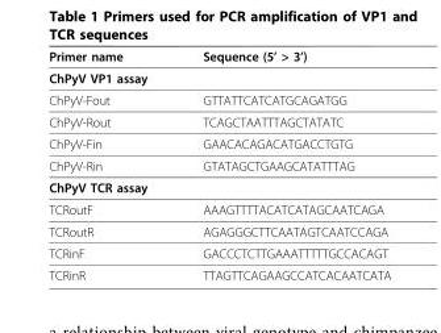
<table><thead><tr><td>Primer name</td><td>Sequence (5’ &gt; 3’)</td></tr></thead><tbody><tr><td colspan="2">ChPyV VP1 assay</td></tr><tr><td>ChPyV-Fout</td><td>GTTATTCATCATGCAGATGG</td></tr><tr><td>ChPyV-Rout</td><td>TCAGCTAATTTAGCTATATC</td></tr><tr><td>ChPyV-Fin</td><td>GAACACAGACATGACCTGTG</td></tr><tr><td>ChPyV-Rin</td><td>GTATAGCTGAAGCATATTTAG</td></tr><tr><td colspan="2">ChPyV TCR assay</td></tr><tr><td>TCRoutF</td><td>AAAGTTTTACATCATAGCAATCAGA</td></tr><tr><td>TCRoutR</td><td>AGAGGGCTTCAATAGTCAATCCAGA</td></tr><tr><td>TCRinF</td><td>GACCCTCTTGAAATTTTTGCCACAGT</td></tr><tr><td>TCRinR</td><td>TTAGTTCAGAAGCCATCACAATCATA</td></tr></tbody></table>